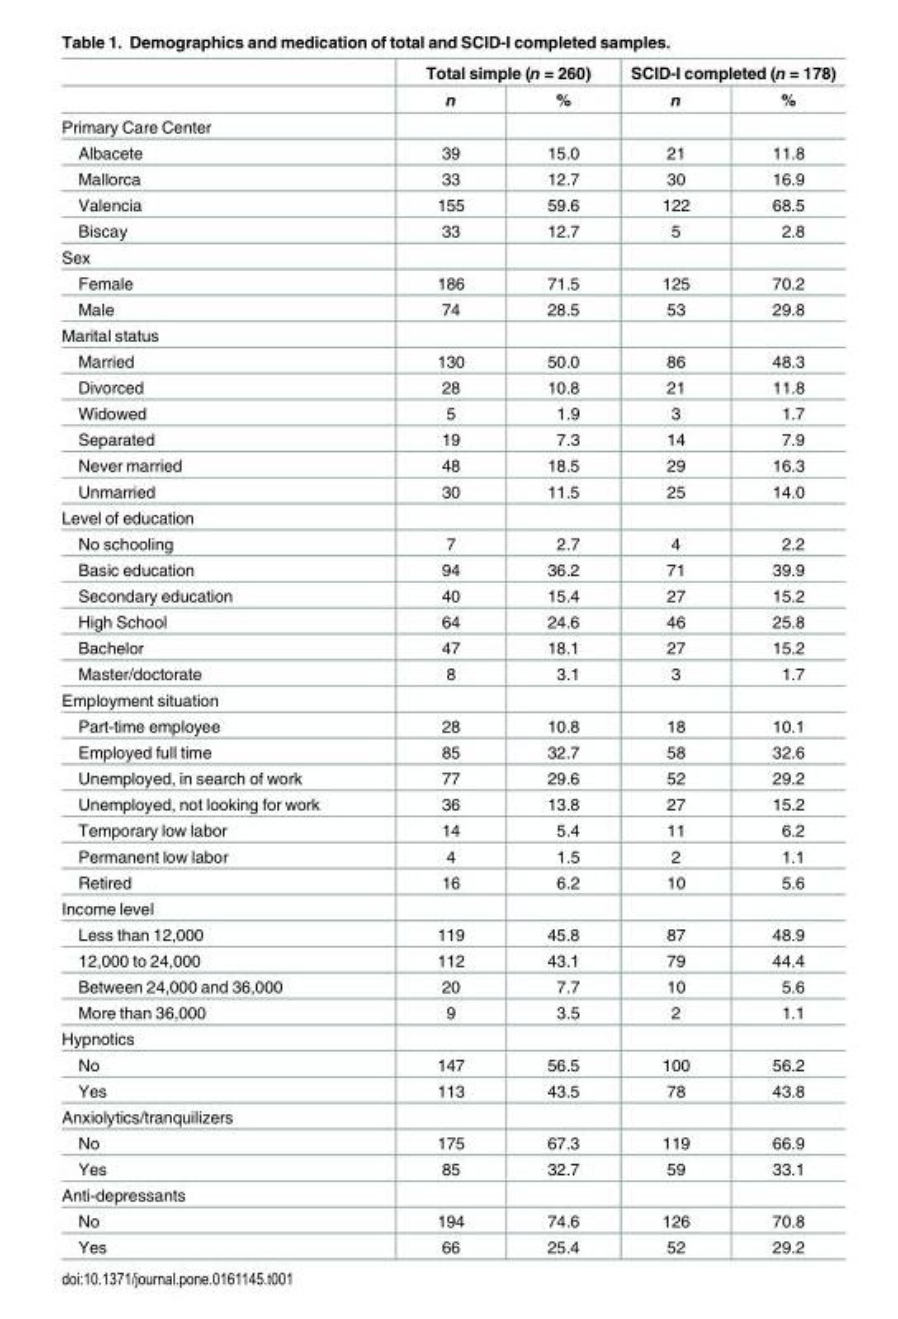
<table><thead><tr><td rowspan="2"></td><td colspan="2">Total simple (n = 260)</td><td colspan="2">SCID-I completed (n = 178)</td></tr><tr><td>n</td><td>%</td><td>n</td><td>%</td></tr></thead><tbody><tr><td colspan="5">Primary Care Center</td></tr><tr><td>Albacete</td><td>39</td><td>15.0</td><td>21</td><td>11.8</td></tr><tr><td>Mallorca</td><td>33</td><td>12.7</td><td>30</td><td>16.9</td></tr><tr><td>Valencia</td><td>155</td><td>59.6</td><td>122</td><td>68.5</td></tr><tr><td>Biscay</td><td>33</td><td>12.7</td><td>5</td><td>2.8</td></tr><tr><td colspan="5">Sex</td></tr><tr><td>Female</td><td>186</td><td>71.5</td><td>125</td><td>70.2</td></tr><tr><td>Male</td><td>74</td><td>28.5</td><td>53</td><td>29.8</td></tr><tr><td colspan="5">Marital status</td></tr><tr><td>Married</td><td>130</td><td>50.0</td><td>86</td><td>48.3</td></tr><tr><td>Divorced</td><td>28</td><td>10.8</td><td>21</td><td>11.8</td></tr><tr><td>Widowed</td><td>5</td><td>1.9</td><td>3</td><td>1.7</td></tr><tr><td>Separated</td><td>19</td><td>7.3</td><td>14</td><td>7.9</td></tr><tr><td>Never married</td><td>48</td><td>18.5</td><td>29</td><td>16.3</td></tr><tr><td>Unmarried</td><td>30</td><td>11.5</td><td>25</td><td>14.0</td></tr><tr><td colspan="5">Level of education</td></tr><tr><td>No schooling</td><td>7</td><td>2.7</td><td>4</td><td>2.2</td></tr><tr><td>Basic education</td><td>94</td><td>36.2</td><td>71</td><td>39.9</td></tr><tr><td>Secondary education</td><td>40</td><td>15.4</td><td>27</td><td>15.2</td></tr><tr><td>High School</td><td>64</td><td>24.6</td><td>46</td><td>25.8</td></tr><tr><td>Bachelor</td><td>47</td><td>18.1</td><td>27</td><td>15.2</td></tr><tr><td>Master/doctorate</td><td>8</td><td>3.1</td><td>3</td><td>1.7</td></tr><tr><td colspan="5">Employment situation</td></tr><tr><td>Part-time employee</td><td>28</td><td>10.8</td><td>18</td><td>10.1</td></tr><tr><td>Employed full time</td><td>85</td><td>32.7</td><td>58</td><td>32.6</td></tr><tr><td>Unemployed, in search of work</td><td>77</td><td>29.6</td><td>52</td><td>29.2</td></tr><tr><td>Unemployed, not looking for work</td><td>36</td><td>13.8</td><td>27</td><td>15.2</td></tr><tr><td>Temporary low labor</td><td>14</td><td>5.4</td><td>11</td><td>6.2</td></tr><tr><td>Permanent low labor</td><td>4</td><td>1.5</td><td>2</td><td>1.1</td></tr><tr><td>Retired</td><td>16</td><td>6.2</td><td>10</td><td>5.6</td></tr><tr><td colspan="5">Income level</td></tr><tr><td>Less than 12,000</td><td>119</td><td>45.8</td><td>87</td><td>48.9</td></tr><tr><td>12,000 to 24,000</td><td>112</td><td>43.1</td><td>79</td><td>44.4</td></tr><tr><td>Between 24,000 and 36,000</td><td>20</td><td>7.7</td><td>10</td><td>5.6</td></tr><tr><td>More than 36,000</td><td>9</td><td>3.5</td><td>2</td><td>1.1</td></tr><tr><td colspan="5">Hypnotics</td></tr><tr><td>No</td><td>147</td><td>56.5</td><td>100</td><td>56.2</td></tr><tr><td>Yes</td><td>113</td><td>43.5</td><td>78</td><td>43.8</td></tr><tr><td colspan="5">Anxiolytics/tranquilizers</td></tr><tr><td>No</td><td>175</td><td>67.3</td><td>119</td><td>66.9</td></tr><tr><td>Yes</td><td>85</td><td>32.7</td><td>59</td><td>33.1</td></tr><tr><td colspan="5">Anti-depressants</td></tr><tr><td>No</td><td>194</td><td>74.6</td><td>126</td><td>70.8</td></tr><tr><td>Yes</td><td>66</td><td>25.4</td><td>52</td><td>29.2</td></tr></tbody></table>